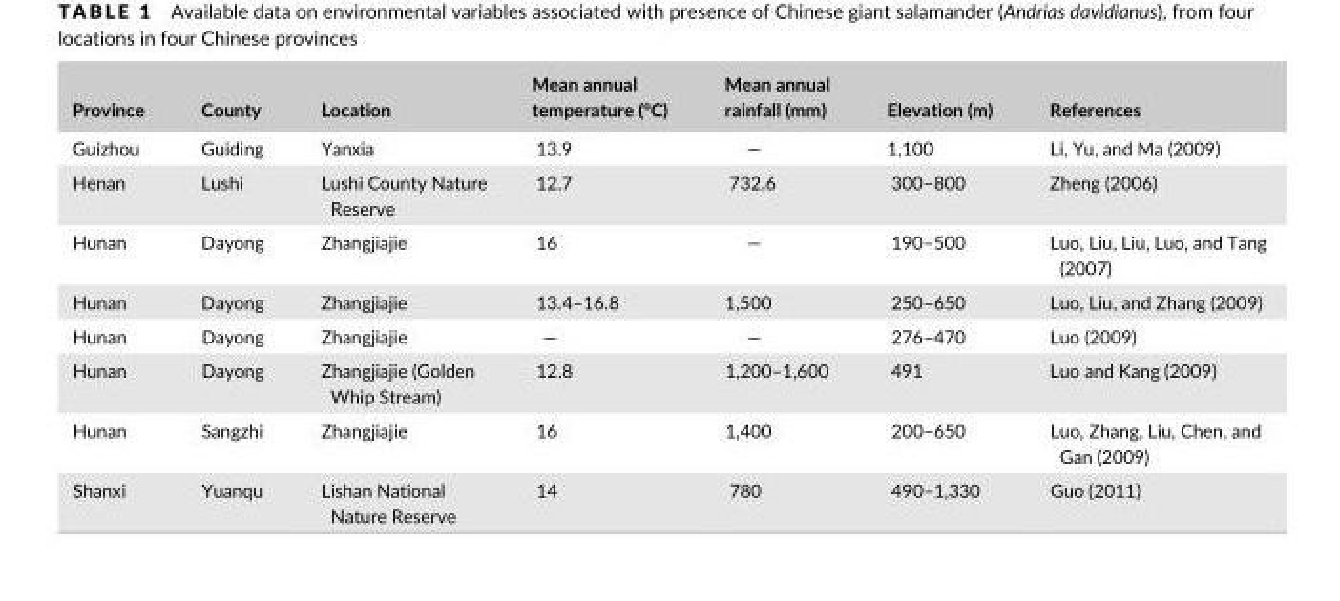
<table><thead><tr><td>Province</td><td>County</td><td>Location</td><td>Mean annual temperature (°C)</td><td>Mean annual rainfall (mm)</td><td>Elevation (m)</td><td>References</td></tr></thead><tbody><tr><td>Guizhou</td><td>Guiding</td><td>Yanxia</td><td>13.9</td><td>—</td><td>1,100</td><td>Li, Yu, and Ma (2009)</td></tr><tr><td>Henan</td><td>Lushi</td><td>Lushi County Nature Reserve</td><td>12.7</td><td>732.6</td><td>300–800</td><td>Zheng (2006)</td></tr><tr><td>Hunan</td><td>Dayong</td><td>Zhangjiajie</td><td>16</td><td>—</td><td>190–500</td><td>Luo, Liu, Liu, Luo, and Tang (2007)</td></tr><tr><td>Hunan</td><td>Dayong</td><td>Zhangjiajie</td><td>13.4–16.8</td><td>1,500</td><td>250–650</td><td>Luo, Liu, and Zhang (2009)</td></tr><tr><td>Hunan</td><td>Dayong</td><td>Zhangjiajie</td><td>—</td><td>—</td><td>276–470</td><td>Luo (2009)</td></tr><tr><td>Hunan</td><td>Dayong</td><td>Zhangjiajie (Golden Whip Stream)</td><td>12.8</td><td>1,200–1,600</td><td>491</td><td>Luo and Kang (2009)</td></tr><tr><td>Hunan</td><td>Sangzhi</td><td>Zhangjiajie</td><td>16</td><td>1,400</td><td>200–650</td><td>Luo, Zhang, Liu, Chen, and Gan (2009)</td></tr><tr><td>Shanxi</td><td>Yuanqu</td><td>Lishan National Nature Reserve</td><td>14</td><td>780</td><td>490–1,330</td><td>Guo (2011)</td></tr></tbody></table>